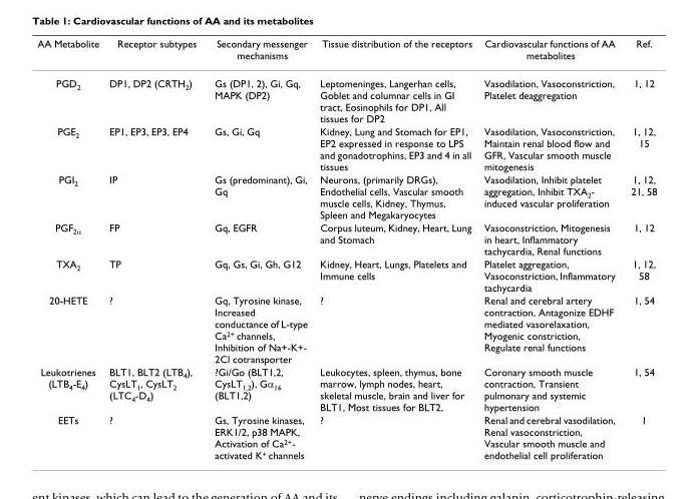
<table><thead><tr><td>AA Metabolite</td><td>Receptor subtypes</td><td>Secondary messenger mechanisms</td><td>Tissue distribution of the receptors</td><td>Cardiovascular functions of AA metabolites</td><td>Ref.</td></tr></thead><tbody><tr><td>PGD<sub>2</sub></td><td>DP1, DP2 (CRTH<sub>2</sub>)</td><td>Gs (DP1, 2), Gi, Gq, MAPK (DP2)</td><td>Leptomeninges, Langerhan cells, Goblet and columnar cells in GI tract, Eosinophils for DP1, All tissues for DP2</td><td>Vasodilation, Vasoconstriction, Platelet deaggregation</td><td>1, 12</td></tr><tr><td>PGE<sub>2</sub></td><td>EP1, EP3, EP3, EP4</td><td>Gs, Gi, Gq</td><td>Kidney, Lung and Stomach for EP1, EP2 expressed in response to LPS and gonadotrophins, EP3 and 4 in all tissues</td><td>Vasodilation, Vasoconstriction, Maintain renal blood flow and GFR, Vascular smooth muscle mitogenesis</td><td>1, 12, 15</td></tr><tr><td>PGI<sub>2</sub></td><td>IP</td><td>Gs (predominant), Gi, Gq</td><td>Neurons, (primarily DRGs), Endothelial cells, Vascular smooth muscle cells, Kidney, Thymus, Spleen and Megakaryocytes</td><td>Vasodilation, Inhibit platelet aggregation, Inhibit TXA<sub>2</sub>- induced vascular proliferation</td><td>1, 12, 21, 58</td></tr><tr><td>PGF<sub>2α</sub></td><td>FP</td><td>Gq, EGFR</td><td>Corpus luteum, Kidney, Heart, Lung and Stomach</td><td>Vasoconstriction, Mitogenesis in heart, Inflammatory tachycardia, Renal functions</td><td>1, 12</td></tr><tr><td>TXA<sub>2</sub></td><td>TP</td><td>Gq, Gs, Gi, Gh, G12</td><td>Kidney, Heart, Lungs, Platelets and Immune cells</td><td>Platelet aggregation, Vasoconstriction, Inflammatory tachycardia</td><td>1, 12, 58</td></tr><tr><td>20-HETE</td><td>?</td><td>Gq, Tyrosine kinase, Increased conductance of L-type Ca<sup>2+</sup> channels, Inhibition of Na+-K+- 2Cl cotransporter</td><td>?</td><td>Renal and cerebral artery contraction, Antagonize EDHF mediated vasorelaxation, Myogenic constriction, Regulate renal functions</td><td>1, 54</td></tr><tr><td>Leukotrienes (LTB<sub>4</sub>-E<sub>4</sub>)</td><td>BLT1, BLT2 (LTB<sub>4</sub>), CysLT<sub>1</sub>, CysLT<sub>2</sub> (LTC<sub>4</sub>-D<sub>4</sub>)</td><td>?Gi/Go (BLT1,2, CysLT<sub>1,2</sub>), Gα<sub>16</sub> (BLT1,2)</td><td>Leukocytes, spleen, thymus, bone marrow, lymph nodes, heart, skeletal muscle, brain and liver for BLT1, Most tissues for BLT2,</td><td>Coronary smooth muscle contraction, Transient pulmonary and systemic hypertension</td><td>1, 54</td></tr><tr><td>EETs</td><td>?</td><td>Gs, Tyrosine kinases, ERK1/2, p38 MAPK, Activation of Ca<sup>2+</sup>- activated K<sup>+</sup> channels</td><td>?</td><td>Renal and cerebral vasodilation, Renal vasoconstriction, Vascular smooth muscle and endothelial cell proliferation</td><td>1</td></tr></tbody></table>